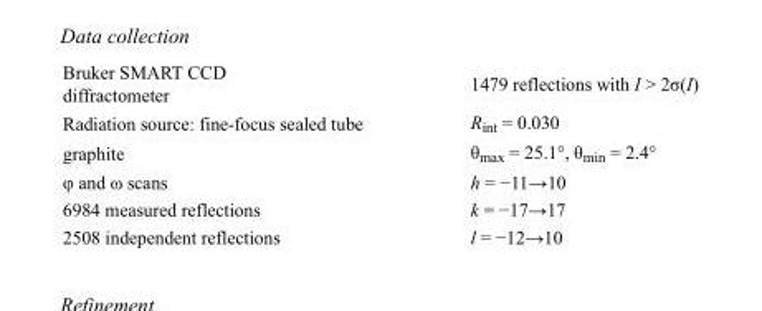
<table><tbody><tr><td>Bruker SMART CCD diffractometer</td><td>1479 reflections with I &gt; 2σ(I)</td></tr><tr><td>Radiation source: fine-focus sealed tube</td><td>R<sub>int</sub> = 0.030</td></tr><tr><td>graphite</td><td>θ<sub>max</sub> = 25.1°, θ<sub>min</sub> = 2.4°</td></tr><tr><td>φ and ω scans</td><td>h = −11→10</td></tr><tr><td>6984 measured reflections</td><td>k = −17→17</td></tr><tr><td>2508 independent reflections</td><td>l = −12→10</td></tr></tbody></table>